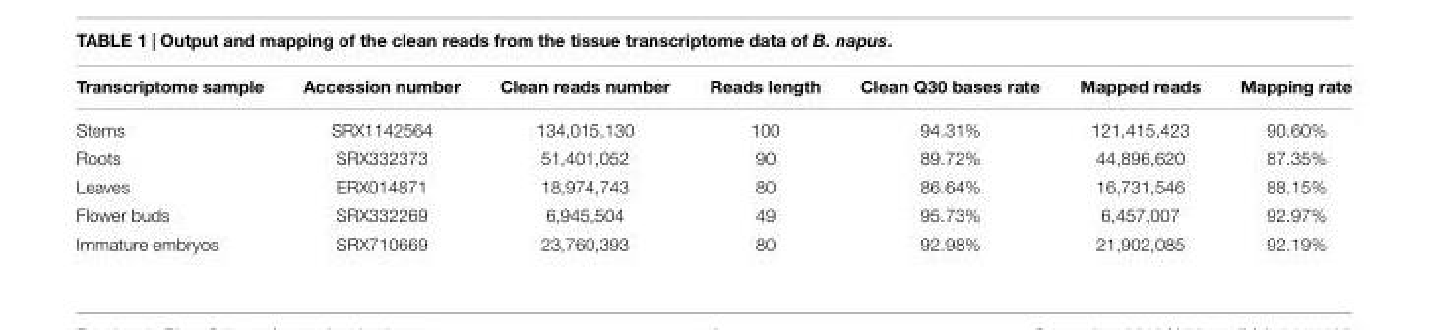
<table><thead><tr><td>Transcriptome sample</td><td>Accession number</td><td>Clean reads number</td><td>Reads length</td><td>Clean Q30 bases rate</td><td>Mapped reads</td><td>Mapping rate</td></tr></thead><tbody><tr><td>Stems</td><td>SRX1142564</td><td>134,015,130</td><td>100</td><td>94.31%</td><td>121,415,423</td><td>90.60%</td></tr><tr><td>Roots</td><td>SRX332373</td><td>51,401,052</td><td>90</td><td>89.72%</td><td>44,896,620</td><td>87.35%</td></tr><tr><td>Leaves</td><td>ERX014871</td><td>18,974,743</td><td>80</td><td>86.64%</td><td>16,731,546</td><td>88.15%</td></tr><tr><td>Flower buds</td><td>SRX332269</td><td>6,945,504</td><td>49</td><td>95.73%</td><td>6,457,007</td><td>92.97%</td></tr><tr><td>Immature embryos</td><td>SRX710669</td><td>23,760,393</td><td>80</td><td>92.98%</td><td>21,902,085</td><td>92.19%</td></tr></tbody></table>